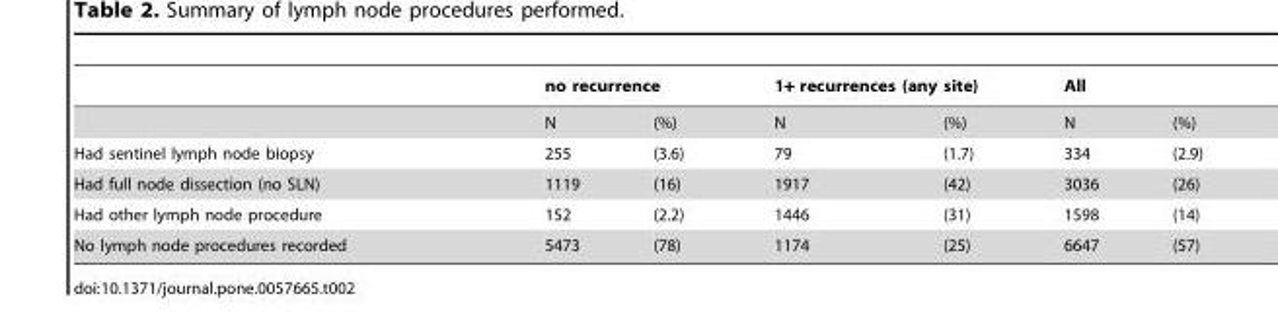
<table><thead><tr><td rowspan="2"></td><td colspan="2">no recurrence</td><td colspan="2">1+ recurrences (any site)</td><td colspan="2">All</td></tr><tr><td>N</td><td>(%)</td><td>N</td><td>(%)</td><td>N</td><td>(%)</td></tr></thead><tbody><tr><td>Had sentinel lymph node biopsy</td><td>255</td><td>(3.6)</td><td>79</td><td>(1.7)</td><td>334</td><td>(2.9)</td></tr><tr><td>Had full node dissection (no SLN)</td><td>1119</td><td>(16)</td><td>1917</td><td>(42)</td><td>3036</td><td>(26)</td></tr><tr><td>Had other lymph node procedure</td><td>152</td><td>(2.2)</td><td>1446</td><td>(31)</td><td>1598</td><td>(14)</td></tr><tr><td>No lymph node procedures recorded</td><td>5473</td><td>(78)</td><td>1174</td><td>(25)</td><td>6647</td><td>(57)</td></tr></tbody></table>